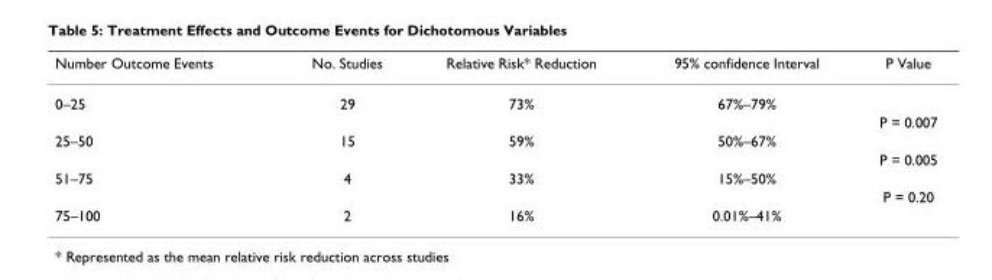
<table><thead><tr><td>Number Outcome Events</td><td>No. Studies</td><td>Relative Risk* Reduction</td><td>95% confidence Interval</td><td>P Value</td></tr></thead><tbody><tr><td rowspan="2">0–25</td><td>29</td><td>73%</td><td>67%–79%</td><td></td></tr><tr><td></td><td></td><td></td><td>P = 0.007</td></tr><tr><td rowspan="2">25–50</td><td>15</td><td>59%</td><td>50%–67%</td><td></td></tr><tr><td></td><td></td><td></td><td>P = 0.005</td></tr><tr><td rowspan="2">51–75</td><td>4</td><td>33%</td><td>15%–50%</td><td></td></tr><tr><td></td><td></td><td></td><td>P = 0.20</td></tr><tr><td>75–100</td><td>2</td><td>16%</td><td>0.01%–41%</td><td></td></tr></tbody></table>